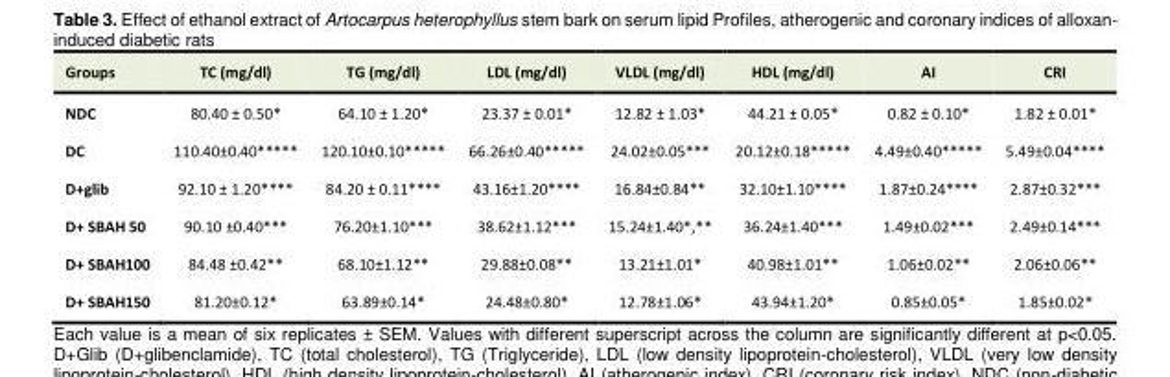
<table><tbody><tr><td>Groups</td><td>TC (mg/dl)</td><td>TG (mg/dl)</td><td>LDL (mg/dl)</td><td>VLDL (mg/dl)</td><td>HDL (mg/dl)</td><td>AI</td><td>CRI</td></tr><tr><td>NDC</td><td>80.40 ± 0.50*</td><td>64.10 ± 1.20*</td><td>23.37 ± 0.01*</td><td>12.82 ± 1.03*</td><td>44.21 ± 0.05*</td><td>0.82 ± 0.10*</td><td>1.82 ± 0.01*</td></tr><tr><td>DC</td><td>110.40±0.40*****</td><td>120.10±0.10*****</td><td>66.26±0.40*****</td><td>24.02±0.05***</td><td>20.12±0.18*****</td><td>4.49±0.40*****</td><td>5.49±0.04****</td></tr><tr><td>D+glib</td><td>92.10 ± 1.20****</td><td>84.20 ± 0.11****</td><td>43.16±1.20****</td><td>16.84±0.84**</td><td>32.10±1.10****</td><td>1.87±0.24****</td><td>2.87±0.32***</td></tr><tr><td>D+ SBAH 50</td><td>90.10 ±0.40***</td><td>76.20±1.10***</td><td>38.62±1.12***</td><td>15.24±1.40*,**</td><td>36.24±1.40***</td><td>1.49±0.02***</td><td>2.49±0.14***</td></tr><tr><td>D+ SBAH100</td><td>84.48 ±0.42**</td><td>68.10±1.12**</td><td>29.88±0.08**</td><td>13.21±1.01*</td><td>40.98±1.01**</td><td>1.06±0.02**</td><td>2.06±0.06**</td></tr><tr><td>D+ SBAH150</td><td>81.20±0.12*</td><td>63.89±0.14*</td><td>24.48±0.80*</td><td>12.78±1.06*</td><td>43.94±1.20*</td><td>0.85±0.05*</td><td>1.85±0.02*</td></tr></tbody></table>